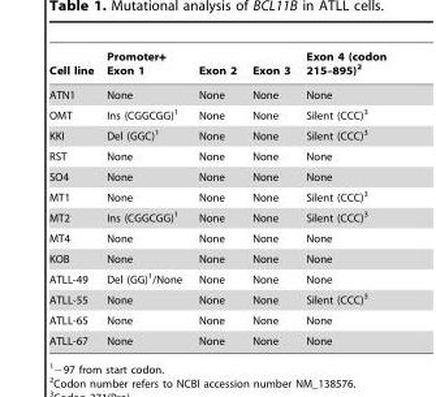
<table><thead><tr><td>Cell line</td><td>Promoter+ Exon 1</td><td>Exon 2</td><td>Exon 3</td><td>Exon 4 (codon 215–895)<sup>2</sup></td></tr></thead><tbody><tr><td>ATN1</td><td>None</td><td>None</td><td>None</td><td>None</td></tr><tr><td>OMT</td><td>Ins (CGGCGG)<sup>1</sup></td><td>None</td><td>None</td><td>Silent (CCC)<sup>3</sup></td></tr><tr><td>KKI</td><td>Del (GGC)<sup>1</sup></td><td>None</td><td>None</td><td>Silent (CCC)<sup>3</sup></td></tr><tr><td>RST</td><td>None</td><td>None</td><td>None</td><td>None</td></tr><tr><td>SO4</td><td>None</td><td>None</td><td>None</td><td>None</td></tr><tr><td>MT1</td><td>None</td><td>None</td><td>None</td><td>Silent (CCC)<sup>3</sup></td></tr><tr><td>MT2</td><td>Ins (CGGCGG)<sup>1</sup></td><td>None</td><td>None</td><td>Silent (CCC)<sup>3</sup></td></tr><tr><td>MT4</td><td>None</td><td>None</td><td>None</td><td>None</td></tr><tr><td>KOB</td><td>None</td><td>None</td><td>None</td><td>None</td></tr><tr><td>ATLL-49</td><td>Del (GG)<sup>1</sup>/None</td><td>None</td><td>None</td><td>None</td></tr><tr><td>ATLL-55</td><td>None</td><td>None</td><td>None</td><td>Silent (CCC)<sup>3</sup></td></tr><tr><td>ATLL-65</td><td>None</td><td>None</td><td>None</td><td>None</td></tr><tr><td>ATLL-67</td><td>None</td><td>None</td><td>None</td><td>None</td></tr></tbody></table>